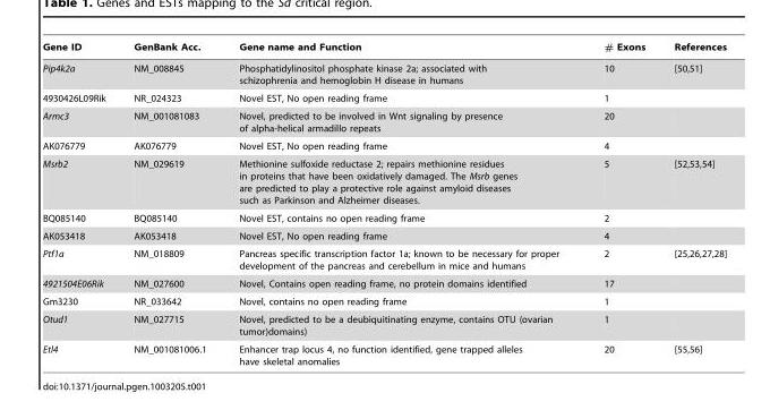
<table><thead><tr><td>Gene ID</td><td>GenBank Acc.</td><td>Gene name and Function</td><td># Exons</td><td>References</td></tr></thead><tbody><tr><td>Pip4k2a</td><td>NM_008845</td><td>Phosphatidylinositol phosphate kinase 2a; associated with schizophrenia and hemoglobin H disease in humans</td><td>10</td><td>[50,51]</td></tr><tr><td>4930426L09Rik</td><td>NR_024323</td><td>Novel EST, No open reading frame</td><td>1</td><td></td></tr><tr><td>Armc3</td><td>NM_001081083</td><td>Novel, predicted to be involved in Wnt signaling by presence of alpha-helical armadillo repeats</td><td>20</td><td></td></tr><tr><td>AK076779</td><td>AK076779</td><td>Novel EST, No open reading frame</td><td>4</td><td></td></tr><tr><td>Msrb2</td><td>NM_029619</td><td>Methionine sulfoxide reductase 2; repairs methionine residues in proteins that have been oxidatively damaged. The Msrb genes are predicted to play a protective role against amyloid diseases such as Parkinson and Alzheimer diseases.</td><td>5</td><td>[52,53,54]</td></tr><tr><td>BQ085140</td><td>BQ085140</td><td>Novel EST, contains no open reading frame</td><td>2</td><td></td></tr><tr><td>AK053418</td><td>AK053418</td><td>Novel EST, No open reading frame</td><td>4</td><td></td></tr><tr><td>Ptf1a</td><td>NM_018809</td><td>Pancreas specific transcription factor 1a; known to be necessary for proper development of the pancreas and cerebellum in mice and humans</td><td>2</td><td>[25,26,27,28]</td></tr><tr><td>4921504E06Rik</td><td>NM_027600</td><td>Novel, Contains open reading frame, no protein domains identified</td><td>17</td><td></td></tr><tr><td>Gm3230</td><td>NR_033642</td><td>Novel, contains no open reading frame</td><td>1</td><td></td></tr><tr><td>Otud1</td><td>NM_027715</td><td>Novel, predicted to be a deubiquitinating enzyme, contains OTU (ovarian tumor)domains)</td><td>1</td><td></td></tr><tr><td>Etl4</td><td>NM_001081006.1</td><td>Enhancer trap locus 4, no function identified, gene trapped alleles have skeletal anomalies</td><td>20</td><td>[55,56]</td></tr></tbody></table>